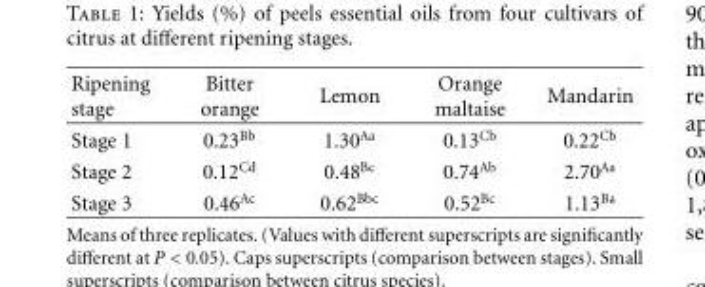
<table><thead><tr><td>Ripening stage</td><td>Bitter orange</td><td>Lemon</td><td>Orange maltaise</td><td>Mandarin</td></tr></thead><tbody><tr><td>Stage 1</td><td>0.23<sup>Bb</sup></td><td>1.30<sup>Aa</sup></td><td>0.13<sup>Cb</sup></td><td>0.22<sup>Cb</sup></td></tr><tr><td>Stage 2</td><td>0.12<sup>Cd</sup></td><td>0.48<sup>Bc</sup></td><td>0.74<sup>Ab</sup></td><td>2.70<sup>Aa</sup></td></tr><tr><td>Stage 3</td><td>0.46<sup>Ac</sup></td><td>0.62<sup>Bbc</sup></td><td>0.52<sup>Bc</sup></td><td>1.13<sup>Ba</sup></td></tr></tbody></table>